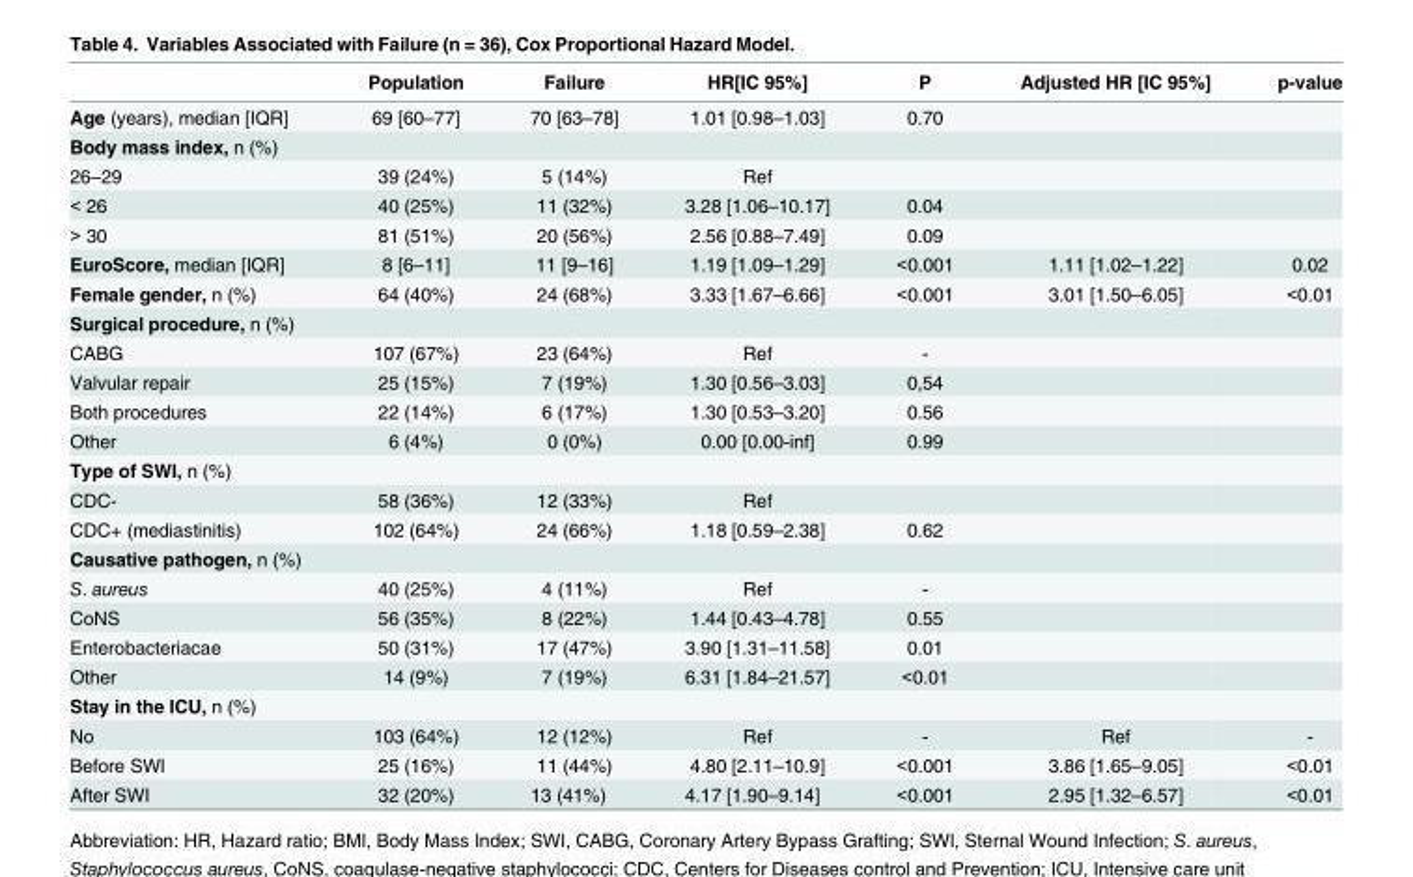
<table><thead><tr><td></td><td>Population</td><td>Failure</td><td>HR[IC 95%]</td><td>P</td><td>Adjusted HR [IC 95%]</td><td>p-value</td></tr></thead><tbody><tr><td>Age (years), median [IQR]</td><td>69 [60–77]</td><td>70 [63–78]</td><td>1.01 [0.98–1.03]</td><td>0.70</td><td></td><td></td></tr><tr><td colspan="7">Body mass index, n (%)</td></tr><tr><td>26–29</td><td>39 (24%)</td><td>5 (14%)</td><td>Ref</td><td></td><td></td><td></td></tr><tr><td>&lt; 26</td><td>40 (25%)</td><td>11 (32%)</td><td>3.28 [1.06–10.17]</td><td>0.04</td><td></td><td></td></tr><tr><td>&gt; 30</td><td>81 (51%)</td><td>20 (56%)</td><td>2.56 [0.88–7.49]</td><td>0.09</td><td></td><td></td></tr><tr><td>EuroScore, median [IQR]</td><td>8 [6–11]</td><td>11 [9–16]</td><td>1.19 [1.09–1.29]</td><td>&lt;0.001</td><td>1.11 [1.02–1.22]</td><td>0.02</td></tr><tr><td>Female gender, n (%)</td><td>64 (40%)</td><td>24 (68%)</td><td>3.33 [1.67–6.66]</td><td>&lt;0.001</td><td>3.01 [1.50–6.05]</td><td>&lt;0.01</td></tr><tr><td colspan="7">Surgical procedure, n (%)</td></tr><tr><td>CABG</td><td>107 (67%)</td><td>23 (64%)</td><td>Ref</td><td>-</td><td></td><td></td></tr><tr><td>Valvular repair</td><td>25 (15%)</td><td>7 (19%)</td><td>1.30 [0.56–3.03]</td><td>0,54</td><td></td><td></td></tr><tr><td>Both procedures</td><td>22 (14%)</td><td>6 (17%)</td><td>1.30 [0.53–3.20]</td><td>0.56</td><td></td><td></td></tr><tr><td>Other</td><td>6 (4%)</td><td>0 (0%)</td><td>0.00 [0.00-inf]</td><td>0.99</td><td></td><td></td></tr><tr><td colspan="7">Type of SWI, n (%)</td></tr><tr><td>CDC-</td><td>58 (36%)</td><td>12 (33%)</td><td>Ref</td><td></td><td></td><td></td></tr><tr><td>CDC+ (mediastinitis)</td><td>102 (64%)</td><td>24 (66%)</td><td>1.18 [0.59–2.38]</td><td>0.62</td><td></td><td></td></tr><tr><td colspan="7">Causative pathogen, n (%)</td></tr><tr><td>S. aureus</td><td>40 (25%)</td><td>4 (11%)</td><td>Ref</td><td>-</td><td></td><td></td></tr><tr><td>CoNS</td><td>56 (35%)</td><td>8 (22%)</td><td>1.44 [0.43–4.78]</td><td>0.55</td><td></td><td></td></tr><tr><td>Enterobacteriacae</td><td>50 (31%)</td><td>17 (47%)</td><td>3.90 [1.31–11.58]</td><td>0.01</td><td></td><td></td></tr><tr><td>Other</td><td>14 (9%)</td><td>7 (19%)</td><td>6.31 [1.84–21.57]</td><td>&lt;0.01</td><td></td><td></td></tr><tr><td colspan="7">Stay in the ICU, n (%)</td></tr><tr><td>No</td><td>103 (64%)</td><td>12 (12%)</td><td>Ref</td><td>-</td><td>Ref</td><td>-</td></tr><tr><td>Before SWI</td><td>25 (16%)</td><td>11 (44%)</td><td>4.80 [2.11–10.9]</td><td>&lt;0.001</td><td>3.86 [1.65–9.05]</td><td>&lt;0.01</td></tr><tr><td>After SWI</td><td>32 (20%)</td><td>13 (41%)</td><td>4.17 [1.90–9.14]</td><td>&lt;0.001</td><td>2.95 [1.32–6.57]</td><td>&lt;0.01</td></tr></tbody></table>